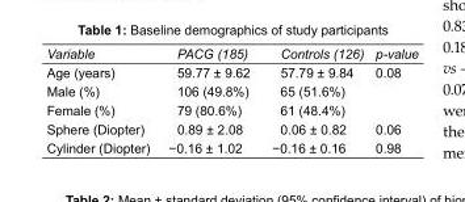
<table><tbody><tr><td>Variable</td><td>PACG (185)</td><td>Controls (126)</td><td>p-value</td></tr><tr><td>Age (years)</td><td>59.77 ± 9.62</td><td>57.79 ± 9.84</td><td>0.08</td></tr><tr><td>Male (%)</td><td>106 (49.8%)</td><td>65 (51.6%)</td><td></td></tr><tr><td>Female (%)</td><td>79 (80.6%)</td><td>61 (48.4%)</td><td></td></tr><tr><td>Sphere (Diopter)</td><td>0.89 ± 2.08</td><td>0.06 ± 0.82</td><td>0.06</td></tr><tr><td>Cylinder (Diopter)</td><td>−0.16 ± 1.02</td><td>−0.16 ± 0.16</td><td>0.98</td></tr></tbody></table>